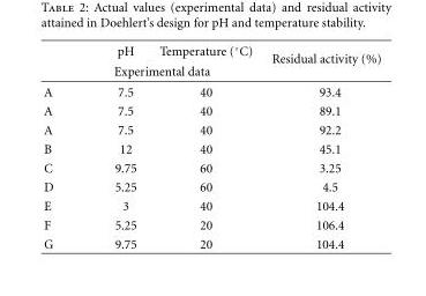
<table><thead><tr><td rowspan="2"></td><td>pH</td><td>Temperature (◦C)</td><td rowspan="2">Residual activity (%)</td></tr><tr><td colspan="2">Experimental data</td></tr></thead><tbody><tr><td>A</td><td>7.5</td><td>40</td><td>93.4</td></tr><tr><td>A</td><td>7.5</td><td>40</td><td>89.1</td></tr><tr><td>A</td><td>7.5</td><td>40</td><td>92.2</td></tr><tr><td>B</td><td>12</td><td>40</td><td>45.1</td></tr><tr><td>C</td><td>9.75</td><td>60</td><td>3.25</td></tr><tr><td>D</td><td>5.25</td><td>60</td><td>4.5</td></tr><tr><td>E</td><td>3</td><td>40</td><td>104.4</td></tr><tr><td>F</td><td>5.25</td><td>20</td><td>106.4</td></tr><tr><td>G</td><td>9.75</td><td>20</td><td>104.4</td></tr></tbody></table>